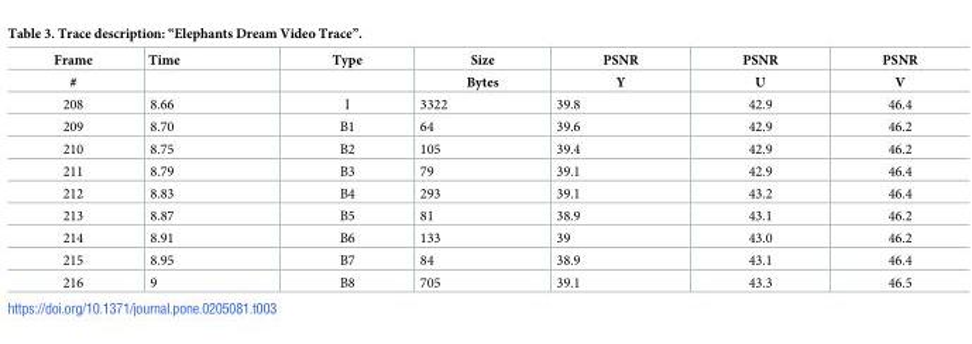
<table><thead><tr><td rowspan="2">Frame #</td><td rowspan="2">Time</td><td rowspan="2">Type</td><td rowspan="2">Size Bytes</td><td rowspan="2">PSNR Y</td><td rowspan="2">PSNR U</td><td rowspan="2">PSNR V</td></tr><tr></tr></thead><tbody><tr><td>208</td><td>8.66</td><td>I</td><td>3322</td><td>39.8</td><td>42.9</td><td>46.4</td></tr><tr><td>209</td><td>8.70</td><td>B1</td><td>64</td><td>39.6</td><td>42.9</td><td>46.2</td></tr><tr><td>210</td><td>8.75</td><td>B2</td><td>105</td><td>39.4</td><td>42.9</td><td>46.2</td></tr><tr><td>211</td><td>8.79</td><td>B3</td><td>79</td><td>39.1</td><td>42.9</td><td>46.4</td></tr><tr><td>212</td><td>8.83</td><td>B4</td><td>293</td><td>39.1</td><td>43.2</td><td>46.4</td></tr><tr><td>213</td><td>8.87</td><td>B5</td><td>81</td><td>38.9</td><td>43.1</td><td>46.2</td></tr><tr><td>214</td><td>8.91</td><td>B6</td><td>133</td><td>39</td><td>43.0</td><td>46.2</td></tr><tr><td>215</td><td>8.95</td><td>B7</td><td>84</td><td>38.9</td><td>43.1</td><td>46.4</td></tr><tr><td>216</td><td>9</td><td>B8</td><td>705</td><td>39.1</td><td>43.3</td><td>46.5</td></tr></tbody></table>